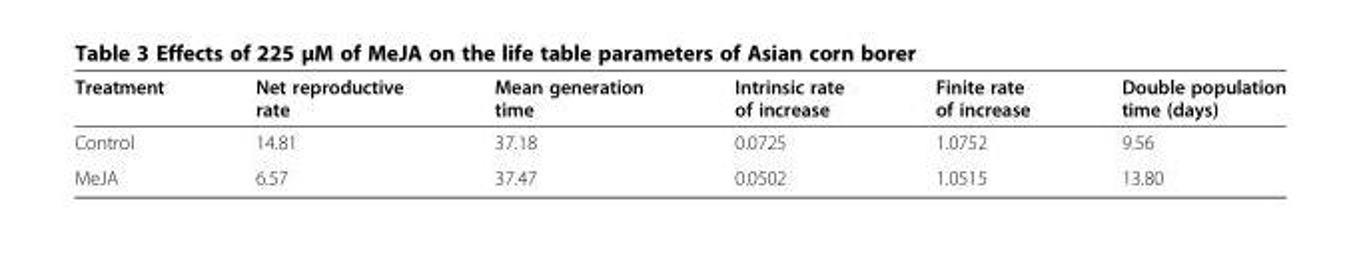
<table><thead><tr><td>Treatment</td><td>Net reproductive rate</td><td>Mean generation time</td><td>Intrinsic rate of increase</td><td>Finite rate of increase</td><td>Double population time (days)</td></tr></thead><tbody><tr><td>Control</td><td>14.81</td><td>37.18</td><td>0.0725</td><td>1.0752</td><td>9.56</td></tr><tr><td>MeJA</td><td>6.57</td><td>37.47</td><td>0.0502</td><td>1.0515</td><td>13.80</td></tr></tbody></table>